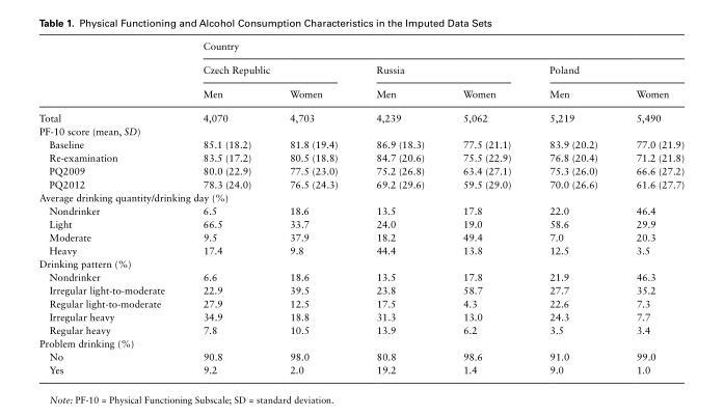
<table><thead><tr><td rowspan="3"></td><td colspan="4">Country</td><td></td><td></td></tr><tr><td colspan="2">Czech Republic</td><td colspan="2">Russia</td><td colspan="2">Poland</td></tr><tr><td>Men</td><td>Women</td><td>Men</td><td>Women</td><td>Men</td><td>Women</td></tr></thead><tbody><tr><td>Total</td><td>4,070</td><td>4,703</td><td>4,239</td><td>5,062</td><td>5,219</td><td>5,490</td></tr><tr><td colspan="7">PF-10 score (mean, SD)</td></tr><tr><td>Baseline</td><td>85.1 (18.2)</td><td>81.8 (19.4)</td><td>86.9 (18.3)</td><td>77.5 (21.1)</td><td>83.9 (20.2)</td><td>77.0 (21.9)</td></tr><tr><td>Re-examination</td><td>83.5 (17.2)</td><td>80.5 (18.8)</td><td>84.7 (20.6)</td><td>75.5 (22.9)</td><td>76.8 (20.4)</td><td>71.2 (21.8)</td></tr><tr><td>PQ2009</td><td>80.0 (22.9)</td><td>77.5 (23.0)</td><td>75.2 (26.8)</td><td>63.4 (27.1)</td><td>75.3 (26.0)</td><td>66.6 (27.2)</td></tr><tr><td>PQ2012</td><td>78.3 (24.0)</td><td>76.5 (24.3)</td><td>69.2 (29.6)</td><td>59.5 (29.0)</td><td>70.0 (26.6)</td><td>61.6 (27.7)</td></tr><tr><td colspan="7">Average drinking quantity/drinking day (%)</td></tr><tr><td>Nondrinker</td><td>6.5</td><td>18.6</td><td>13.5</td><td>17.8</td><td>22.0</td><td>46.4</td></tr><tr><td>Light</td><td>66.5</td><td>33.7</td><td>24.0</td><td>19.0</td><td>58.6</td><td>29.9</td></tr><tr><td>Moderate</td><td>9.5</td><td>37.9</td><td>18.2</td><td>49.4</td><td>7.0</td><td>20.3</td></tr><tr><td>Heavy</td><td>17.4</td><td>9.8</td><td>44.4</td><td>13.8</td><td>12.5</td><td>3.5</td></tr><tr><td colspan="7">Drinking pattern (%)</td></tr><tr><td>Nondrinker</td><td>6.6</td><td>18.6</td><td>13.5</td><td>17.8</td><td>21.9</td><td>46.3</td></tr><tr><td>Irregular light-to-moderate</td><td>22.9</td><td>39.5</td><td>23.8</td><td>58.7</td><td>27.7</td><td>35.2</td></tr><tr><td>Regular light-to-moderate</td><td>27.9</td><td>12.5</td><td>17.5</td><td>4.3</td><td>22.6</td><td>7.3</td></tr><tr><td>Irregular heavy</td><td>34.9</td><td>18.8</td><td>31.3</td><td>13.0</td><td>24.3</td><td>7.7</td></tr><tr><td>Regular heavy</td><td>7.8</td><td>10.5</td><td>13.9</td><td>6.2</td><td>3.5</td><td>3.4</td></tr><tr><td colspan="7">Problem drinking (%)</td></tr><tr><td>No</td><td>90.8</td><td>98.0</td><td>80.8</td><td>98.6</td><td>91.0</td><td>99.0</td></tr><tr><td>Yes</td><td>9.2</td><td>2.0</td><td>19.2</td><td>1.4</td><td>9.0</td><td>1.0</td></tr></tbody></table>